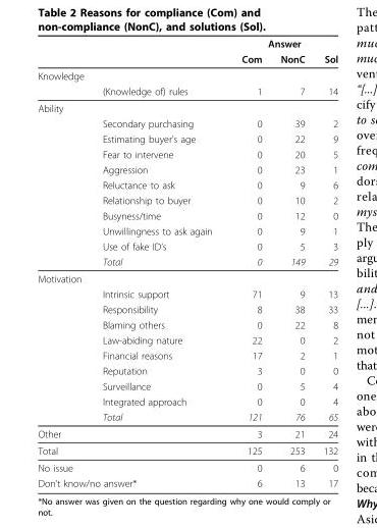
<table><thead><tr><td rowspan="2"></td><td rowspan="2"></td><td colspan="3">Answer</td></tr><tr><td>Com</td><td>NonC</td><td>Sol</td></tr></thead><tbody><tr><td colspan="5">Knowledge</td></tr><tr><td></td><td>(Knowledge of) rules</td><td>1</td><td>7</td><td>14</td></tr><tr><td colspan="5">Ability</td></tr><tr><td></td><td>Secondary purchasing</td><td>0</td><td>39</td><td>2</td></tr><tr><td></td><td>Estimating buyer’s age</td><td>0</td><td>22</td><td>9</td></tr><tr><td></td><td>Fear to intervene</td><td>0</td><td>20</td><td>5</td></tr><tr><td></td><td>Aggression</td><td>0</td><td>23</td><td>1</td></tr><tr><td></td><td>Reluctance to ask</td><td>0</td><td>9</td><td>6</td></tr><tr><td></td><td>Relationship to buyer</td><td>0</td><td>10</td><td>2</td></tr><tr><td></td><td>Busyness/time</td><td>0</td><td>12</td><td>0</td></tr><tr><td></td><td>Unwillingness to ask again</td><td>0</td><td>9</td><td>1</td></tr><tr><td></td><td>Use of fake ID’s</td><td>0</td><td>5</td><td>3</td></tr><tr><td></td><td>Total</td><td>0</td><td>149</td><td>29</td></tr><tr><td colspan="5">Motivation</td></tr><tr><td></td><td>Intrinsic support</td><td>71</td><td>9</td><td>13</td></tr><tr><td></td><td>Responsibility</td><td>8</td><td>38</td><td>33</td></tr><tr><td></td><td>Blaming others</td><td>0</td><td>22</td><td>8</td></tr><tr><td></td><td>Law-abiding nature</td><td>22</td><td>0</td><td>2</td></tr><tr><td></td><td>Financial reasons</td><td>17</td><td>2</td><td>1</td></tr><tr><td></td><td>Reputation</td><td>3</td><td>0</td><td>0</td></tr><tr><td></td><td>Surveillance</td><td>0</td><td>5</td><td>4</td></tr><tr><td></td><td>Integrated approach</td><td>0</td><td>0</td><td>4</td></tr><tr><td></td><td>Total</td><td>121</td><td>76</td><td>65</td></tr><tr><td>Other</td><td></td><td>3</td><td>21</td><td>24</td></tr><tr><td>Total</td><td></td><td>125</td><td>253</td><td>132</td></tr><tr><td>No issue</td><td></td><td>0</td><td>6</td><td>0</td></tr><tr><td colspan="2">Don’t know/no answer*</td><td>6</td><td>13</td><td>17</td></tr></tbody></table>